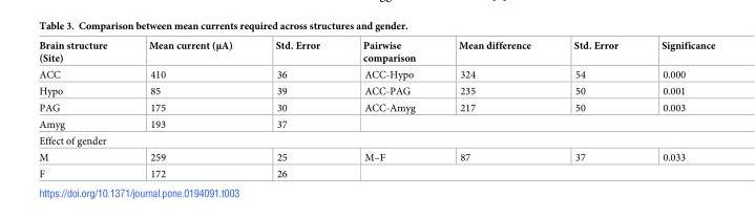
<table><thead><tr><td>Brain structure (Site)</td><td>Mean current (μA)</td><td>Std. Error</td><td>Pairwise comparison</td><td>Mean difference</td><td>Std. Error</td><td>Significance</td></tr></thead><tbody><tr><td>ACC</td><td>410</td><td>36</td><td>ACC-Hypo</td><td>324</td><td>54</td><td>0.000</td></tr><tr><td>Hypo</td><td>85</td><td>39</td><td>ACC-PAG</td><td>235</td><td>50</td><td>0.001</td></tr><tr><td>PAG</td><td>175</td><td>30</td><td>ACC-Amyg</td><td>217</td><td>50</td><td>0.003</td></tr><tr><td>Amyg</td><td>193</td><td>37</td><td colspan="4"></td></tr><tr><td colspan="7">Effect of gender</td></tr><tr><td>M</td><td>259</td><td>25</td><td>M–F</td><td>87</td><td>37</td><td>0.033</td></tr><tr><td>F</td><td>172</td><td>26</td><td colspan="4"></td></tr></tbody></table>